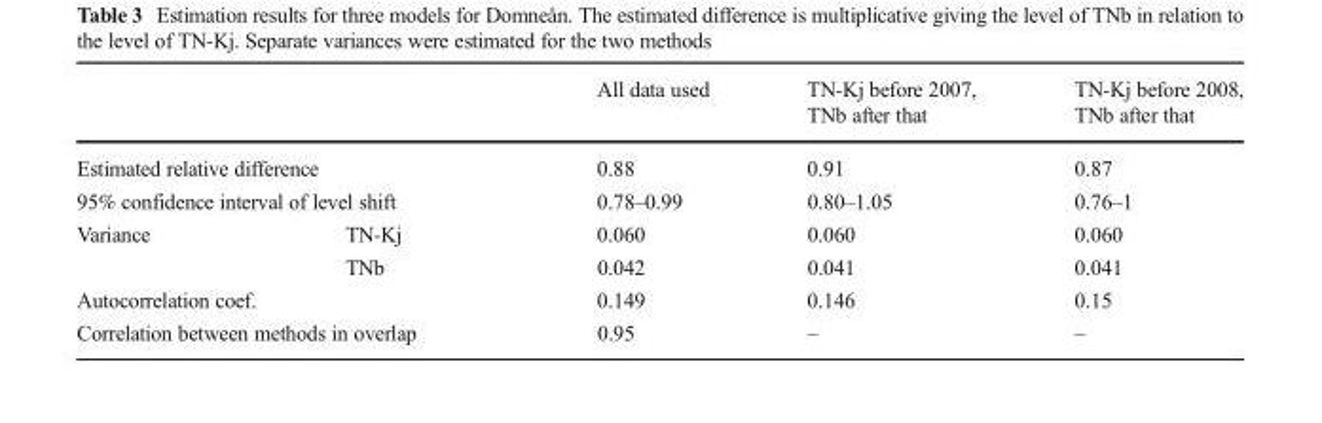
<table><thead><tr><td></td><td></td><td>All data used</td><td>TN-Kj before 2007, TNb after that</td><td>TN-Kj before 2008, TNb after that</td></tr></thead><tbody><tr><td colspan="2">Estimated relative difference</td><td>0.88</td><td>0.91</td><td>0.87</td></tr><tr><td colspan="2">95% confidence interval of level shift</td><td>0.78–0.99</td><td>0.80–1.05</td><td>0.76–1</td></tr><tr><td rowspan="2">Variance</td><td>TN-Kj</td><td>0.060</td><td>0.060</td><td>0.060</td></tr><tr><td>TNb</td><td>0.042</td><td>0.041</td><td>0.041</td></tr><tr><td colspan="2">Autocorrelation coef.</td><td>0.149</td><td>0.146</td><td>0.15</td></tr><tr><td colspan="2">Correlation between methods in overlap</td><td>0.95</td><td>–</td><td>–</td></tr></tbody></table>